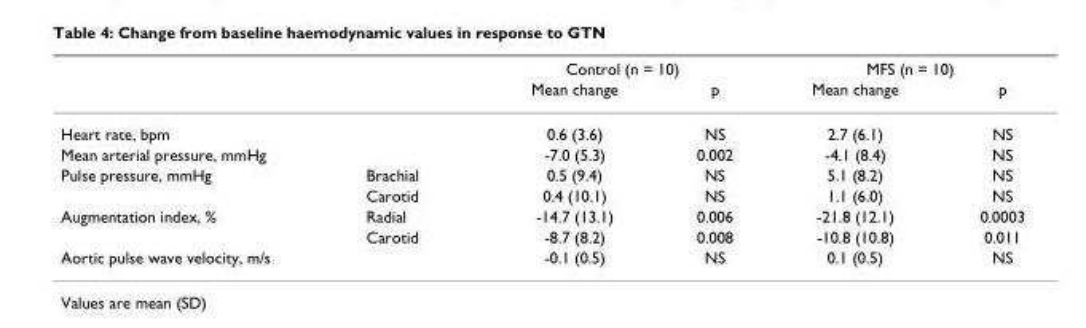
<table><thead><tr><td rowspan="2"></td><td rowspan="2"></td><td colspan="2">Control (n = 10)</td><td colspan="2">MFS (n = 10)</td></tr><tr><td>Mean change</td><td>p</td><td>Mean change</td><td>p</td></tr></thead><tbody><tr><td colspan="2">Heart rate, bpm</td><td>0.6 (3.6)</td><td>NS</td><td>2.7 (6.1)</td><td>NS</td></tr><tr><td colspan="2">Mean arterial pressure, mmHg</td><td>-7.0 (5.3)</td><td>0.002</td><td>-4.1 (8.4)</td><td>NS</td></tr><tr><td rowspan="2">Pulse pressure, mmHg</td><td>Brachial</td><td>0.5 (9.4)</td><td>NS</td><td>5.1 (8.2)</td><td>NS</td></tr><tr><td>Carotid</td><td>0.4 (10.1)</td><td>NS</td><td>1.1 (6.0)</td><td>NS</td></tr><tr><td rowspan="2">Augmentation index, %</td><td>Radial</td><td>-14.7 (13.1)</td><td>0.006</td><td>-21.8 (12.1)</td><td>0.0003</td></tr><tr><td>Carotid</td><td>-8.7 (8.2)</td><td>0.008</td><td>-10.8 (10.8)</td><td>0.011</td></tr><tr><td colspan="2">Aortic pulse wave velocity, m/s</td><td>-0.1 (0.5)</td><td>NS</td><td>0.1 (0.5)</td><td>NS</td></tr></tbody></table>